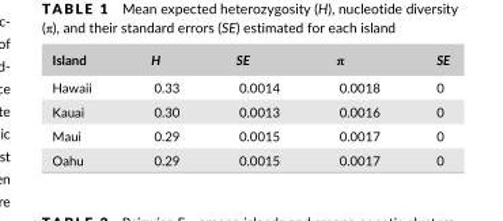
<table><thead><tr><td>Island</td><td>H</td><td>SE</td><td>π</td><td>SE</td></tr></thead><tbody><tr><td>Hawaii</td><td>0.33</td><td>0.0014</td><td>0.0018</td><td>0</td></tr><tr><td>Kauai</td><td>0.30</td><td>0.0013</td><td>0.0016</td><td>0</td></tr><tr><td>Maui</td><td>0.29</td><td>0.0015</td><td>0.0017</td><td>0</td></tr><tr><td>Oahu</td><td>0.29</td><td>0.0015</td><td>0.0017</td><td>0</td></tr></tbody></table>